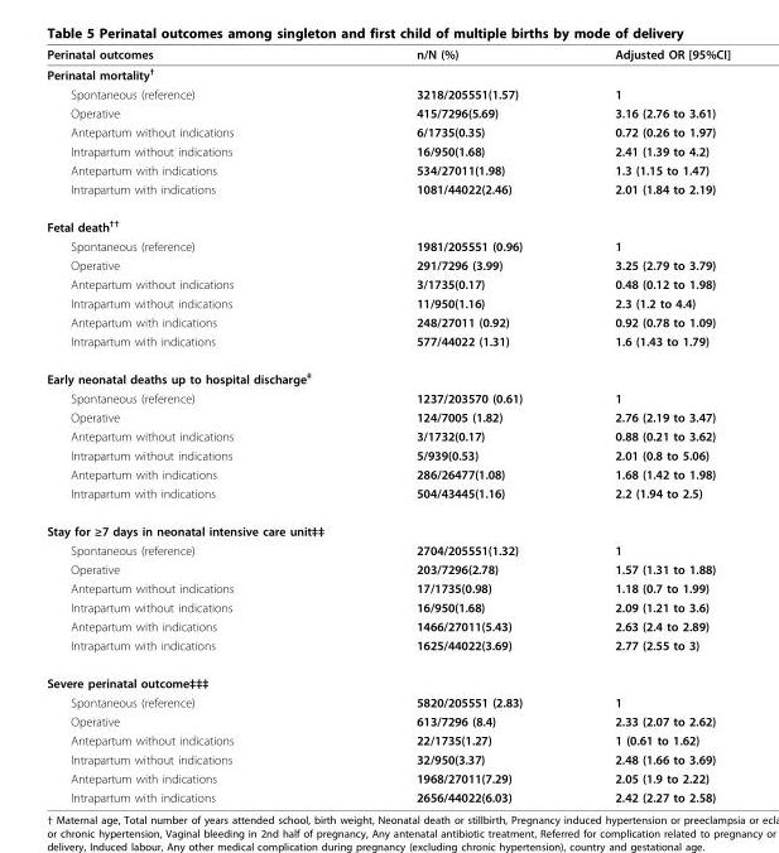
<table><thead><tr><td>Perinatal outcomes</td><td>n/N (%)</td><td>Adjusted OR [95%CI]</td></tr></thead><tbody><tr><td colspan="3">Perinatal mortality<sup>†</sup></td></tr><tr><td>Spontaneous (reference)</td><td>3218/205551(1.57)</td><td>1</td></tr><tr><td>Operative</td><td>415/7296(5.69)</td><td>3.16 (2.76 to 3.61)</td></tr><tr><td>Antepartum without indications</td><td>6/1735(0.35)</td><td>0.72 (0.26 to 1.97)</td></tr><tr><td>Intrapartum without indications</td><td>16/950(1.68)</td><td>2.41 (1.39 to 4.2)</td></tr><tr><td>Antepartum with indications</td><td>534/27011(1.98)</td><td>1.3 (1.15 to 1.47)</td></tr><tr><td>Intrapartum with indications</td><td>1081/44022(2.46)</td><td>2.01 (1.84 to 2.19)</td></tr><tr><td colspan="3">Fetal death<sup>††</sup></td></tr><tr><td>Spontaneous (reference)</td><td>1981/205551 (0.96)</td><td>1</td></tr><tr><td>Operative</td><td>291/7296 (3.99)</td><td>3.25 (2.79 to 3.79)</td></tr><tr><td>Antepartum without indications</td><td>3/1735(0.17)</td><td>0.48 (0.12 to 1.98)</td></tr><tr><td>Intrapartum without indications</td><td>11/950(1.16)</td><td>2.3 (1.2 to 4.4)</td></tr><tr><td>Antepartum with indications</td><td>248/27011 (0.92)</td><td>0.92 (0.78 to 1.09)</td></tr><tr><td>Intrapartum with indications</td><td>577/44022 (1.31)</td><td>1.6 (1.43 to 1.79)</td></tr><tr><td colspan="3">Early neonatal deaths up to hospital discharge<sup>‡</sup></td></tr><tr><td>Spontaneous (reference)</td><td>1237/203570 (0.61)</td><td>1</td></tr><tr><td>Operative</td><td>124/7005 (1.82)</td><td>2.76 (2.19 to 3.47)</td></tr><tr><td>Antepartum without indications</td><td>3/1732(0.17)</td><td>0.88 (0.21 to 3.62)</td></tr><tr><td>Intrapartum without indications</td><td>5/939(0.53)</td><td>2.01 (0.8 to 5.06)</td></tr><tr><td>Antepartum with indications</td><td>286/26477(1.08)</td><td>1.68 (1.42 to 1.98)</td></tr><tr><td>Intrapartum with indications</td><td>504/43445(1.16)</td><td>2.2 (1.94 to 2.5)</td></tr><tr><td colspan="3">Stay for ≥7 days in neonatal intensive care unit‡‡</td></tr><tr><td>Spontaneous (reference)</td><td>2704/205551(1.32)</td><td>1</td></tr><tr><td>Operative</td><td>203/7296(2.78)</td><td>1.57 (1.31 to 1.88)</td></tr><tr><td>Antepartum without indications</td><td>17/1735(0.98)</td><td>1.18 (0.7 to 1.99)</td></tr><tr><td>Intrapartum without indications</td><td>16/950(1.68)</td><td>2.09 (1.21 to 3.6)</td></tr><tr><td>Antepartum with indications</td><td>1466/27011(5.43)</td><td>2.63 (2.4 to 2.89)</td></tr><tr><td>Intrapartum with indications</td><td>1625/44022(3.69)</td><td>2.77 (2.55 to 3)</td></tr><tr><td colspan="3">Severe perinatal outcome‡‡‡</td></tr><tr><td>Spontaneous (reference)</td><td>5820/205551 (2.83)</td><td>1</td></tr><tr><td>Operative</td><td>613/7296 (8.4)</td><td>2.33 (2.07 to 2.62)</td></tr><tr><td>Antepartum without indications</td><td>22/1735(1.27)</td><td>1 (0.61 to 1.62)</td></tr><tr><td>Intrapartum without indications</td><td>32/950(3.37)</td><td>2.48 (1.66 to 3.69)</td></tr><tr><td>Antepartum with indications</td><td>1968/27011(7.29)</td><td>2.05 (1.9 to 2.22)</td></tr><tr><td>Intrapartum with indications</td><td>2656/44022(6.03)</td><td>2.42 (2.27 to 2.58)</td></tr></tbody></table>